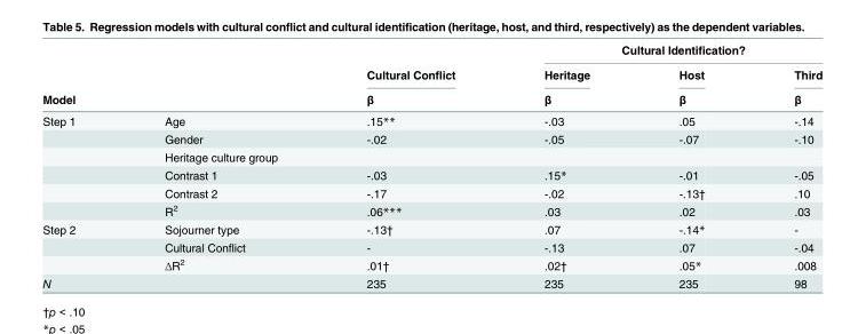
<table><thead><tr><td rowspan="3">Model</td><td rowspan="3"></td><td rowspan="3">Cultural Conflict β</td><td colspan="3">Cultural Identification?</td></tr><tr><td rowspan="2">Heritage β</td><td rowspan="2">Host β</td><td rowspan="2">Third β</td></tr><tr></tr></thead><tbody><tr><td rowspan="6">Step 1</td><td>Age</td><td>.15**</td><td>-.03</td><td>.05</td><td>-.14</td></tr><tr><td>Gender</td><td>-.02</td><td>-.05</td><td>-.07</td><td>-.10</td></tr><tr><td>Heritage culture group</td><td></td><td></td><td></td><td></td></tr><tr><td>Contrast 1</td><td>-.03</td><td>.15*</td><td>-.01</td><td>-.05</td></tr><tr><td>Contrast 2</td><td>-.17</td><td>-.02</td><td>-.13†</td><td>.10</td></tr><tr><td>R<sup>2</sup></td><td>.06***</td><td>.03</td><td>.02</td><td>.03</td></tr><tr><td rowspan="3">Step 2</td><td>Sojourner type</td><td>-.13†</td><td>.07</td><td>-.14*</td><td>-</td></tr><tr><td>Cultural Conflict</td><td>-</td><td>-.13</td><td>.07</td><td>-.04</td></tr><tr><td>ΔR2</td><td>.01†</td><td>.02†</td><td>.05*</td><td>.008</td></tr><tr><td>N</td><td></td><td>235</td><td>235</td><td>235</td><td>98</td></tr></tbody></table>